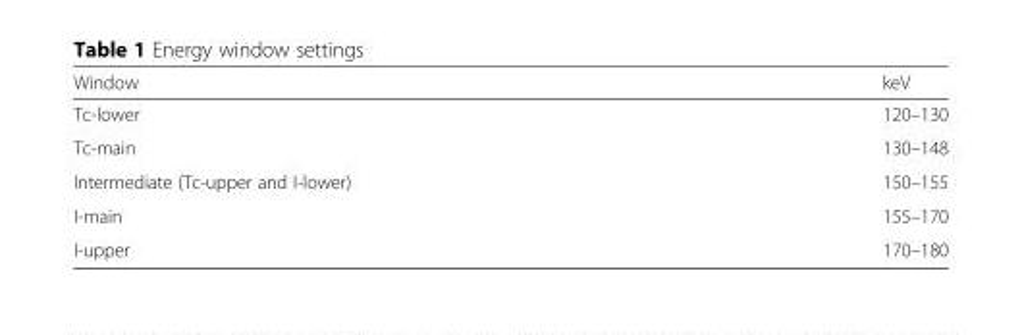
<table><thead><tr><td>Window</td><td>keV</td></tr></thead><tbody><tr><td>Tc-lower</td><td>120–130</td></tr><tr><td>Tc-main</td><td>130–148</td></tr><tr><td>Intermediate (Tc-upper and I-lower)</td><td>150–155</td></tr><tr><td>I-main</td><td>155–170</td></tr><tr><td>I-upper</td><td>170–180</td></tr></tbody></table>